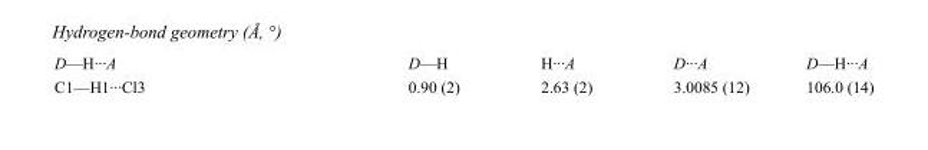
<table><tbody><tr><td>D—H···A</td><td>D—H</td><td>H···A</td><td>D···A</td><td>D—H···A</td></tr><tr><td>C1—H1···Cl3</td><td>0.90 (2)</td><td>2.63 (2)</td><td>3.0085 (12)</td><td>106.0 (14)</td></tr></tbody></table>